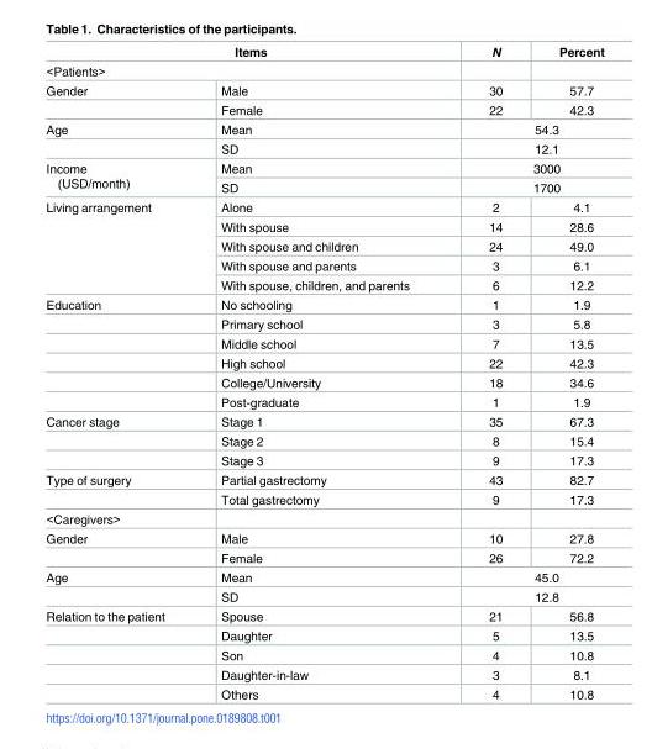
<table><thead><tr><td rowspan="2" colspan="2">Items &lt;Patients&gt;</td><td rowspan="3">N 30</td><td rowspan="3">Percent 57.7</td></tr><tr></tr><tr><td>Gender</td><td>Male</td></tr></thead><tbody><tr><td></td><td>Female</td><td>22</td><td>42.3</td></tr><tr><td rowspan="2">Age</td><td>Mean</td><td colspan="2">54.3</td></tr><tr><td>SD</td><td colspan="2">12.1</td></tr><tr><td rowspan="2">Income (USD/month)</td><td>Mean</td><td colspan="2">3000</td></tr><tr><td>SD</td><td colspan="2">1700</td></tr><tr><td rowspan="5">Living arrangement</td><td>Alone</td><td>2</td><td>4.1</td></tr><tr><td>With spouse</td><td>14</td><td>28.6</td></tr><tr><td>With spouse and children</td><td>24</td><td>49.0</td></tr><tr><td>With spouse and parents</td><td>3</td><td>6.1</td></tr><tr><td>With spouse, children, and parents</td><td>6</td><td>12.2</td></tr><tr><td rowspan="6">Education</td><td>No schooling</td><td>1</td><td>1.9</td></tr><tr><td>Primary school</td><td>3</td><td>5.8</td></tr><tr><td>Middle school</td><td>7</td><td>13.5</td></tr><tr><td>High school</td><td>22</td><td>42.3</td></tr><tr><td>College/University</td><td>18</td><td>34.6</td></tr><tr><td>Post-graduate</td><td>1</td><td>1.9</td></tr><tr><td rowspan="3">Cancer stage</td><td>Stage 1</td><td>35</td><td>67.3</td></tr><tr><td>Stage 2</td><td>8</td><td>15.4</td></tr><tr><td>Stage 3</td><td>9</td><td>17.3</td></tr><tr><td rowspan="2">Type of surgery</td><td>Partial gastrectomy</td><td>43</td><td>82.7</td></tr><tr><td>Total gastrectomy</td><td>9</td><td>17.3</td></tr><tr><td colspan="4">&lt;Caregivers&gt;</td></tr><tr><td rowspan="2">Gender</td><td>Male</td><td>10</td><td>27.8</td></tr><tr><td>Female</td><td>26</td><td>72.2</td></tr><tr><td rowspan="2">Age</td><td>Mean</td><td colspan="2">45.0</td></tr><tr><td>SD</td><td colspan="2">12.8</td></tr><tr><td rowspan="5">Relation to the patient</td><td>Spouse</td><td>21</td><td>56.8</td></tr><tr><td>Daughter</td><td>5</td><td>13.5</td></tr><tr><td>Son</td><td>4</td><td>10.8</td></tr><tr><td>Daughter-in-law</td><td>3</td><td>8.1</td></tr><tr><td>Others</td><td>4</td><td>10.8</td></tr></tbody></table>